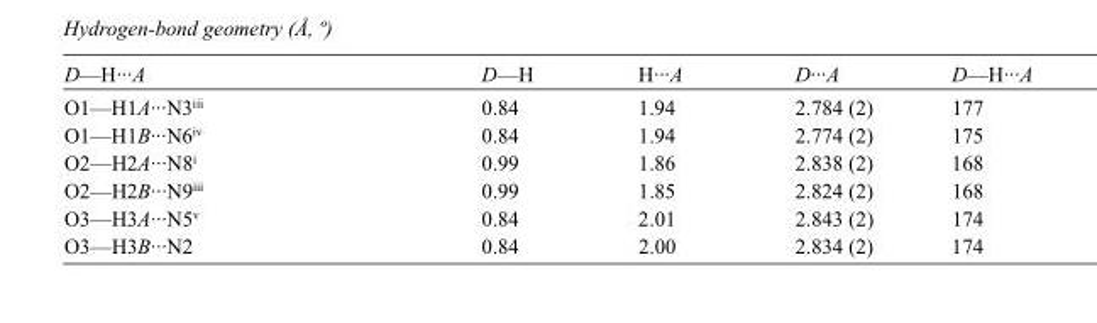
<table><tbody><tr><td>D—H···A</td><td>D—H</td><td>H···A</td><td>D···A</td><td>D—H···A</td></tr><tr><td>O1—H1A···N3<sup>iii</sup></td><td>0.84</td><td>1.94</td><td>2.784 (2)</td><td>177</td></tr><tr><td>O1—H1B···N6<sup>iv</sup></td><td>0.84</td><td>1.94</td><td>2.774 (2)</td><td>175</td></tr><tr><td>O2—H2A···N8<sup>i</sup></td><td>0.99</td><td>1.86</td><td>2.838 (2)</td><td>168</td></tr><tr><td>O2—H2B···N9<sup>iii</sup></td><td>0.99</td><td>1.85</td><td>2.824 (2)</td><td>168</td></tr><tr><td>O3—H3A···N5<sup>v</sup></td><td>0.84</td><td>2.01</td><td>2.843 (2)</td><td>174</td></tr><tr><td>O3—H3B···N2</td><td>0.84</td><td>2.00</td><td>2.834 (2)</td><td>174</td></tr></tbody></table>